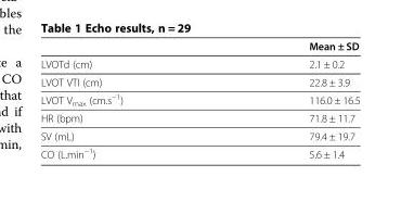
<table><thead><tr><td></td><td>Mean ± SD</td></tr></thead><tbody><tr><td>LVOTd (cm)</td><td>2.1 ± 0.2</td></tr><tr><td>LVOT VTI (cm)</td><td>22.8 ± 3.9</td></tr><tr><td>LVOT V<sub>max</sub> (cm.s<sup>−1</sup>)</td><td>116.0 ± 16.5</td></tr><tr><td>HR (bpm)</td><td>71.8 ± 11.7</td></tr><tr><td>SV (mL)</td><td>79.4 ± 19.7</td></tr><tr><td>CO (L.min<sup>−1</sup>)</td><td>5.6 ± 1.4</td></tr></tbody></table>